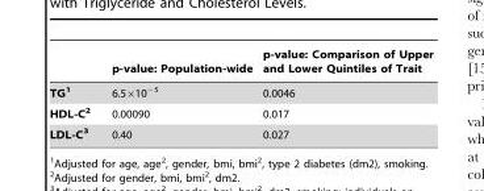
<table><thead><tr><td></td><td>p-value: Population-wide</td><td>p-value: Comparison of Upper and Lower Quintiles of Trait</td></tr></thead><tbody><tr><td>TG1</td><td>6.5×10<sup>−5</sup></td><td>0.0046</td></tr><tr><td>HDL-C2</td><td>0.00090</td><td>0.017</td></tr><tr><td>LDL-C3</td><td>0.40</td><td>0.027</td></tr></tbody></table>